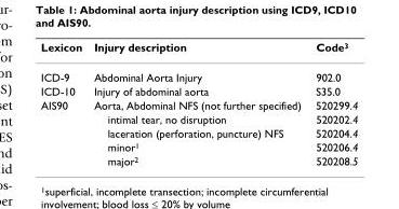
<table><thead><tr><td>Lexicon</td><td>Injury description</td><td>Code<sup>3</sup></td></tr></thead><tbody><tr><td>ICD-9</td><td>Abdominal Aorta Injury</td><td>902.0</td></tr><tr><td>ICD-10</td><td>Injury of abdominal aorta</td><td>S35.0</td></tr><tr><td rowspan="5">AIS90</td><td>Aorta, Abdominal NFS (not further specified)</td><td>520299.4</td></tr><tr><td>intimal tear, no disruption</td><td>520202.4</td></tr><tr><td>laceration (perforation, puncture) NFS</td><td>520204.4</td></tr><tr><td>minor<sup>1</sup></td><td>520206.4</td></tr><tr><td>major<sup>2</sup></td><td>520208.5</td></tr></tbody></table>